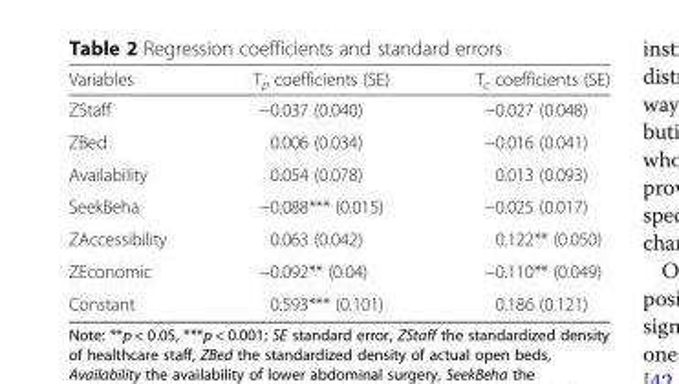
<table><thead><tr><td>Variables</td><td>T<sub>p</sub> coefficients (SE)</td><td>T<sub>c</sub> coefficients (SE)</td></tr></thead><tbody><tr><td>ZStaff</td><td>−0.037 (0.040)</td><td>−0.027 (0.048)</td></tr><tr><td>ZBed</td><td>0.006 (0.034)</td><td>−0.016 (0.041)</td></tr><tr><td>Availability</td><td>0.054 (0.078)</td><td>0.013 (0.093)</td></tr><tr><td>SeekBeha</td><td>−0.088*** (0.015)</td><td>−0.025 (0.017)</td></tr><tr><td>ZAccessibility</td><td>0.063 (0.042)</td><td>0.122** (0.050)</td></tr><tr><td>ZEconomic</td><td>−0.092** (0.04)</td><td>−0.110** (0.049)</td></tr><tr><td>Constant</td><td>0.593*** (0.101)</td><td>0.186 (0.121)</td></tr></tbody></table>